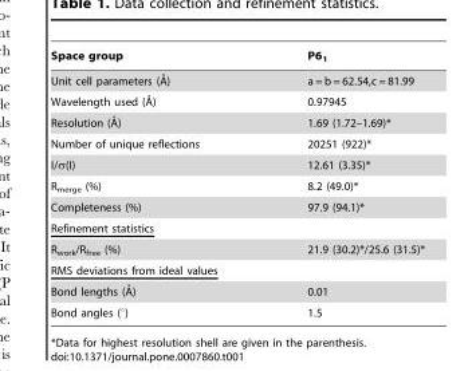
<table><thead><tr><td>Space group</td><td>P6<sub>1</sub></td></tr></thead><tbody><tr><td>Unit cell parameters (A˚)</td><td>a = b = 62.54,c = 81.99</td></tr><tr><td>Wavelength used (A˚)</td><td>0.97945</td></tr><tr><td>Resolution (A˚)</td><td>1.69 (1.72–1.69)*</td></tr><tr><td>Number of unique reflections</td><td>20251 (922)*</td></tr><tr><td>I/σ(I)</td><td>12.61 (3.35)*</td></tr><tr><td>R<sub>merge</sub> (%)</td><td>8.2 (49.0)*</td></tr><tr><td>Completeness (%)</td><td>97.9 (94.1)*</td></tr><tr><td colspan="2">Refinement statistics</td></tr><tr><td>R<sub>work</sub>/R<sub>free</sub> (%)</td><td>21.9 (30.2)*/25.6 (31.5)*</td></tr><tr><td colspan="2">RMS deviations from ideal values</td></tr><tr><td>Bond lengths (A˚)</td><td>0.01</td></tr><tr><td>Bond angles (°)</td><td>1.5</td></tr></tbody></table>